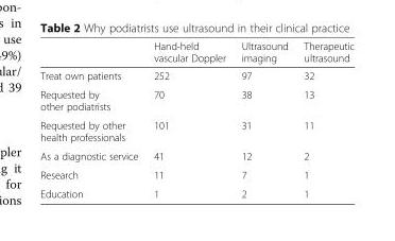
<table><thead><tr><td></td><td>Hand-held vascular Doppler</td><td>Ultrasound imaging</td><td>Therapeutic ultrasound</td></tr></thead><tbody><tr><td>Treat own patients</td><td>252</td><td>97</td><td>32</td></tr><tr><td>Requested by other podiatrists</td><td>70</td><td>38</td><td>13</td></tr><tr><td>Requested by other health professionals</td><td>101</td><td>31</td><td>11</td></tr><tr><td>As a diagnostic service</td><td>41</td><td>12</td><td>2</td></tr><tr><td>Research</td><td>11</td><td>7</td><td>1</td></tr><tr><td>Education</td><td>1</td><td>2</td><td>1</td></tr></tbody></table>